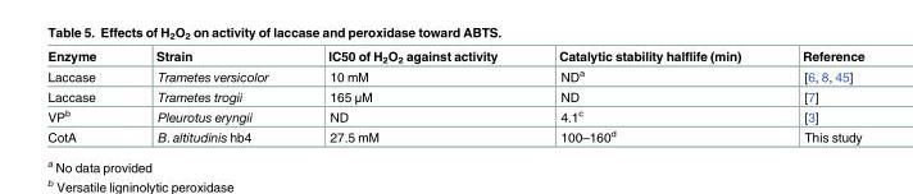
<table><thead><tr><td>Enzyme</td><td>Strain</td><td>IC50 of H<sub>2</sub>O<sub>2</sub> against activity</td><td>Catalytic stability halflife (min)</td><td>Reference</td></tr></thead><tbody><tr><td>Laccase</td><td>Trametes versicolor</td><td>10 mM</td><td>ND<sup>a</sup></td><td>[6, 8, 45]</td></tr><tr><td>Laccase</td><td>Trametes trogii</td><td>165 μM</td><td>ND</td><td>[7]</td></tr><tr><td>VP<sup>b</sup></td><td>Pleurotus eryngii</td><td>ND</td><td>4.1<sup>c</sup></td><td>[3]</td></tr><tr><td>CotA</td><td>B. altitudinis hb4</td><td>27.5 mM</td><td>100–160<sup>d</sup></td><td>This study</td></tr></tbody></table>